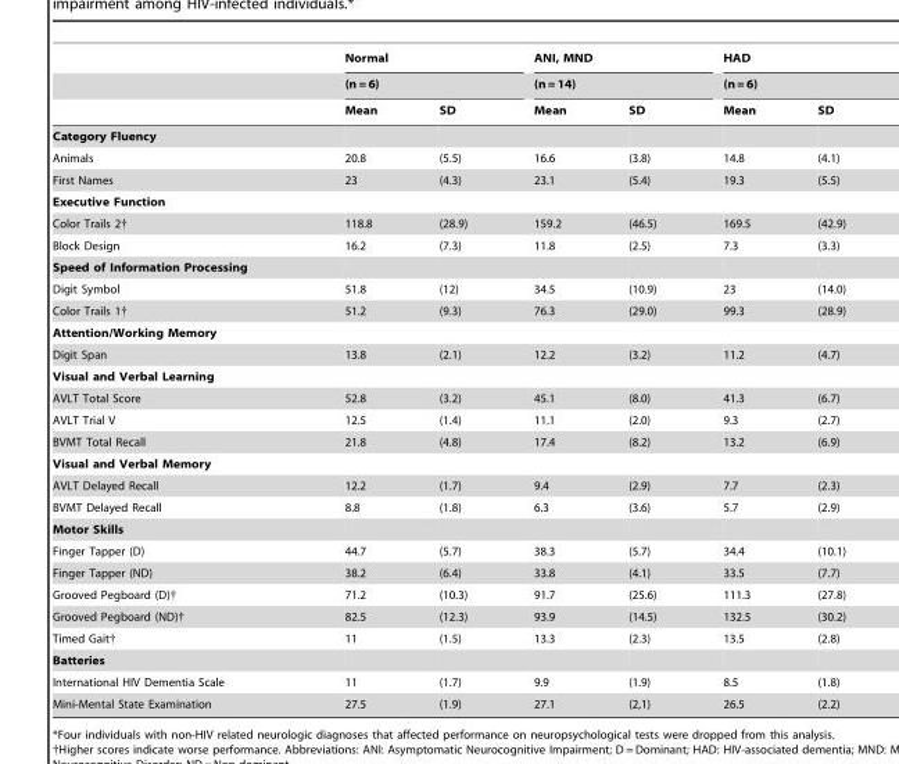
<table><thead><tr><td rowspan="3"></td><td rowspan="2" colspan="2">Normal (n = 6)</td><td rowspan="2" colspan="2">ANI, MND (n = 14)</td><td rowspan="2" colspan="2">HAD (n = 6)</td></tr><tr></tr><tr><td>Mean</td><td>SD</td><td>Mean</td><td>SD</td><td>Mean</td><td>SD</td></tr></thead><tbody><tr><td colspan="7">Category Fluency</td></tr><tr><td>Animals</td><td>20.8</td><td>(5.5)</td><td>16.6</td><td>(3.8)</td><td>14.8</td><td>(4.1)</td></tr><tr><td>First Names</td><td>23</td><td>(4.3)</td><td>23.1</td><td>(5.4)</td><td>19.3</td><td>(5.5)</td></tr><tr><td colspan="7">Executive Function</td></tr><tr><td>Color Trails 2†</td><td>118.8</td><td>(28.9)</td><td>159.2</td><td>(46.5)</td><td>169.5</td><td>(42.9)</td></tr><tr><td>Block Design</td><td>16.2</td><td>(7.3)</td><td>11.8</td><td>(2.5)</td><td>7.3</td><td>(3.3)</td></tr><tr><td colspan="7">Speed of Information Processing</td></tr><tr><td>Digit Symbol</td><td>51.8</td><td>(12)</td><td>34.5</td><td>(10.9)</td><td>23</td><td>(14.0)</td></tr><tr><td>Color Trails 1†</td><td>51.2</td><td>(9.3)</td><td>76.3</td><td>(29.0)</td><td>99.3</td><td>(28.9)</td></tr><tr><td colspan="7">Attention/Working Memory</td></tr><tr><td>Digit Span</td><td>13.8</td><td>(2.1)</td><td>12.2</td><td>(3.2)</td><td>11.2</td><td>(4.7)</td></tr><tr><td colspan="7">Visual and Verbal Learning</td></tr><tr><td>AVLT Total Score</td><td>52.8</td><td>(3.2)</td><td>45.1</td><td>(8.0)</td><td>41.3</td><td>(6.7)</td></tr><tr><td>AVLT Trial V</td><td>12.5</td><td>(1.4)</td><td>11.1</td><td>(2.0)</td><td>9.3</td><td>(2.7)</td></tr><tr><td>BVMT Total Recall</td><td>21.8</td><td>(4.8)</td><td>17.4</td><td>(8.2)</td><td>13.2</td><td>(6.9)</td></tr><tr><td colspan="7">Visual and Verbal Memory</td></tr><tr><td>AVLT Delayed Recall</td><td>12.2</td><td>(1.7)</td><td>9.4</td><td>(2.9)</td><td>7.7</td><td>(2.3)</td></tr><tr><td>BVMT Delayed Recall</td><td>8.8</td><td>(1.8)</td><td>6.3</td><td>(3.6)</td><td>5.7</td><td>(2.9)</td></tr><tr><td colspan="7">Motor Skills</td></tr><tr><td>Finger Tapper (D)</td><td>44.7</td><td>(5.7)</td><td>38.3</td><td>(5.7)</td><td>34.4</td><td>(10.1)</td></tr><tr><td>Finger Tapper (ND)</td><td>38.2</td><td>(6.4)</td><td>33.8</td><td>(4.1)</td><td>33.5</td><td>(7.7)</td></tr><tr><td>Grooved Pegboard (D)†</td><td>71.2</td><td>(10.3)</td><td>91.7</td><td>(25.6)</td><td>111.3</td><td>(27.8)</td></tr><tr><td>Grooved Pegboard (ND)†</td><td>82.5</td><td>(12.3)</td><td>93.9</td><td>(14.5)</td><td>132.5</td><td>(30.2)</td></tr><tr><td>Timed Gait†</td><td>11</td><td>(1.5)</td><td>13.3</td><td>(2.3)</td><td>13.5</td><td>(2.8)</td></tr><tr><td colspan="7">Batteries</td></tr><tr><td>International HIV Dementia Scale</td><td>11</td><td>(1.7)</td><td>9.9</td><td>(1.9)</td><td>8.5</td><td>(1.8)</td></tr><tr><td>Mini-Mental State Examination</td><td>27.5</td><td>(1.9)</td><td>27.1</td><td>(2,1)</td><td>26.5</td><td>(2.2)</td></tr></tbody></table>